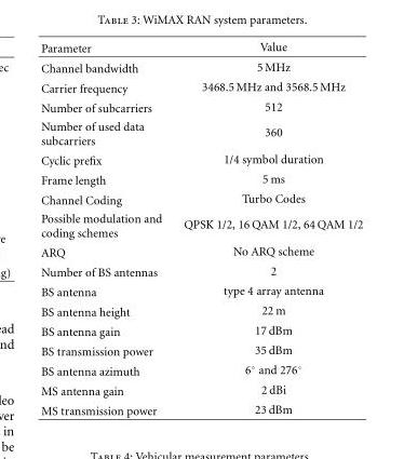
<table><thead><tr><td>Parameter</td><td>Value</td></tr></thead><tbody><tr><td>Channel bandwidth</td><td>5 MHz</td></tr><tr><td>Carrier frequency</td><td>3468.5 MHz and 3568.5 MHz</td></tr><tr><td>Number of subcarriers</td><td>512</td></tr><tr><td>Number of used data subcarriers</td><td>360</td></tr><tr><td>Cyclic prefix</td><td>1/4 symbol duration</td></tr><tr><td>Frame length</td><td>5 ms</td></tr><tr><td>Channel Coding</td><td>Turbo Codes</td></tr><tr><td>Possible modulation and coding schemes</td><td>QPSK 1/2, 16 QAM 1/2, 64 QAM 1/2</td></tr><tr><td>ARQ</td><td>No ARQ scheme</td></tr><tr><td>Number of BS antennas</td><td>2</td></tr><tr><td>BS antenna</td><td>type 4 array antenna</td></tr><tr><td>BS antenna height</td><td>22 m</td></tr><tr><td>BS antenna gain</td><td>17 dBm</td></tr><tr><td>BS transmission power</td><td>35 dBm</td></tr><tr><td>BS antenna azimuth</td><td>6◦ and 276◦</td></tr><tr><td>MS antenna gain</td><td>2 dBi</td></tr><tr><td>MS transmission power</td><td>23 dBm</td></tr></tbody></table>